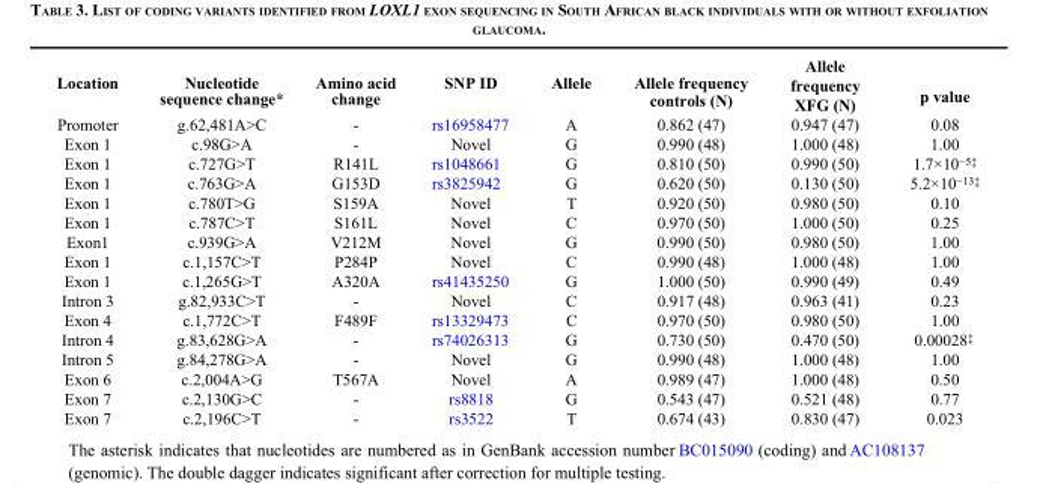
<table><thead><tr><td>Location</td><td>Nucleotide sequence change*</td><td>Amino acid change</td><td>SNP ID</td><td>Allele</td><td>Allele frequency controls (N)</td><td>Allele frequency XFG (N)</td><td>p value</td></tr></thead><tbody><tr><td>Promoter</td><td>g.62,481A&gt;C</td><td>-</td><td>rs16958477</td><td>A</td><td>0.862 (47)</td><td>0.947 (47)</td><td>0.08</td></tr><tr><td>Exon 1</td><td>c.98G&gt;A</td><td>-</td><td>Novel</td><td>G</td><td>0.990 (48)</td><td>1.000 (48)</td><td>1.00</td></tr><tr><td>Exon 1</td><td>c.727G&gt;T</td><td>R141L</td><td>rs1048661</td><td>G</td><td>0.810 (50)</td><td>0.990 (50)</td><td>1.7×10<sup>−5‡</sup></td></tr><tr><td>Exon 1</td><td>c.763G&gt;A</td><td>G153D</td><td>rs3825942</td><td>G</td><td>0.620 (50)</td><td>0.130 (50)</td><td>5.2×10<sup>−13‡</sup></td></tr><tr><td>Exon 1</td><td>c.780T&gt;G</td><td>S159A</td><td>Novel</td><td>T</td><td>0.920 (50)</td><td>0.980 (50)</td><td>0.10</td></tr><tr><td>Exon 1</td><td>c.787C&gt;T</td><td>S161L</td><td>Novel</td><td>C</td><td>0.970 (50)</td><td>1.000 (50)</td><td>0.25</td></tr><tr><td>Exon1</td><td>c.939G&gt;A</td><td>V212M</td><td>Novel</td><td>G</td><td>0.990 (50)</td><td>0.980 (50)</td><td>1.00</td></tr><tr><td>Exon 1</td><td>c.1,157C&gt;T</td><td>P284P</td><td>Novel</td><td>C</td><td>0.990 (48)</td><td>1.000 (48)</td><td>1.00</td></tr><tr><td>Exon 1</td><td>c.1,265G&gt;T</td><td>A320A</td><td>rs41435250</td><td>G</td><td>1.000 (50)</td><td>0.990 (49)</td><td>0.49</td></tr><tr><td>Intron 3</td><td>g.82,933C&gt;T</td><td>-</td><td>Novel</td><td>C</td><td>0.917 (48)</td><td>0.963 (41)</td><td>0.23</td></tr><tr><td>Exon 4</td><td>c.1,772C&gt;T</td><td>F489F</td><td>rs13329473</td><td>C</td><td>0.970 (50)</td><td>0.980 (50)</td><td>1.00</td></tr><tr><td>Intron 4</td><td>g.83,628G&gt;A</td><td>-</td><td>rs74026313</td><td>G</td><td>0.730 (50)</td><td>0.470 (50)</td><td>0.00028 <sup>‡</sup></td></tr><tr><td>Intron 5</td><td>g.84,278G&gt;A</td><td>-</td><td>Novel</td><td>G</td><td>0.990 (48)</td><td>1.000 (48)</td><td>1.00</td></tr><tr><td>Exon 6</td><td>c.2,004A&gt;G</td><td>T567A</td><td>Novel</td><td>A</td><td>0.989 (47)</td><td>1.000 (48)</td><td>0.50</td></tr><tr><td>Exon 7</td><td>c.2,130G&gt;C</td><td>-</td><td>rs8818</td><td>G</td><td>0.543 (47)</td><td>0.521 (48)</td><td>0.77</td></tr><tr><td>Exon 7</td><td>c.2,196C&gt;T</td><td>-</td><td>rs3522</td><td>T</td><td>0.674 (43)</td><td>0.830 (47)</td><td>0.023</td></tr></tbody></table>